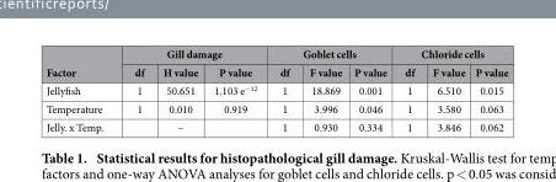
<table><thead><tr><td rowspan="2">Factor</td><td colspan="3">Gill damage</td><td colspan="3">Goblet cells</td><td colspan="3">Chloride cells</td></tr><tr><td>df</td><td>H value</td><td>P value</td><td>df</td><td>F value</td><td>P value</td><td>df</td><td>F value</td><td>P value</td></tr></thead><tbody><tr><td>Jellyfish</td><td>1</td><td>50.651</td><td>1.103 e<sup>−12</sup></td><td>1</td><td>18.869</td><td>0.001</td><td>1</td><td>6.510</td><td>0.015</td></tr><tr><td>Temperature</td><td>1</td><td>0.010</td><td>0.919</td><td>1</td><td>3.996</td><td>0.046</td><td>1</td><td>3.580</td><td>0.063</td></tr><tr><td>Jelly. x Temp.</td><td></td><td>–</td><td></td><td>1</td><td>0.930</td><td>0.334</td><td>1</td><td>3.846</td><td>0.062</td></tr></tbody></table>